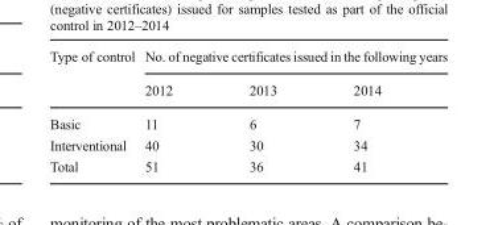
<table><thead><tr><td rowspan="2">Type of control</td><td colspan="3">No. of negative certificates issued in the following years</td></tr><tr><td>2012</td><td>2013</td><td>2014</td></tr></thead><tbody><tr><td>Basic</td><td>11</td><td>6</td><td>7</td></tr><tr><td>Interventional</td><td>40</td><td>30</td><td>34</td></tr><tr><td>Total</td><td>51</td><td>36</td><td>41</td></tr></tbody></table>